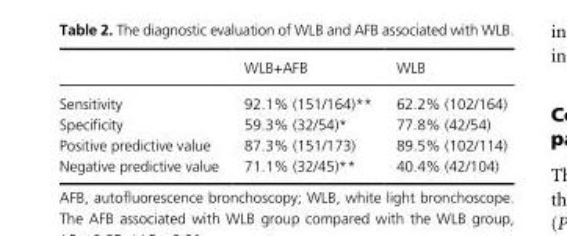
<table><thead><tr><td></td><td>WLB+AFB</td><td>WLB</td></tr></thead><tbody><tr><td>Sensitivity</td><td>92.1% (151/164)**</td><td>62.2% (102/164)</td></tr><tr><td>Specificity</td><td>59.3% (32/54)*</td><td>77.8% (42/54)</td></tr><tr><td>Positive predictive value</td><td>87.3% (151/173)</td><td>89.5% (102/114)</td></tr><tr><td>Negative predictive value</td><td>71.1% (32/45)**</td><td>40.4% (42/104)</td></tr></tbody></table>